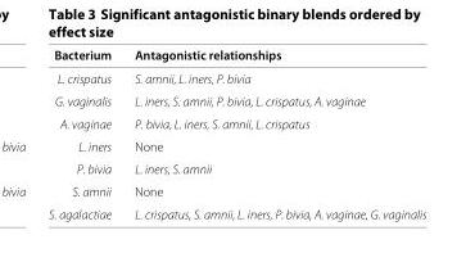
<table><thead><tr><td>Bacterium</td><td>Antagonistic relationships</td></tr></thead><tbody><tr><td>L. crispatus</td><td>S. amnii, L. iners, P. bivia</td></tr><tr><td>G. vaginalis</td><td>L. iners, S. amnii, P. bivia, L. crispatus, A. vaginae</td></tr><tr><td>A. vaginae</td><td>P. bivia, L. iners, S. amnii, L. crispatus</td></tr><tr><td>L. iners</td><td>None</td></tr><tr><td>P. bivia</td><td>L. iners, S. amnii</td></tr><tr><td>S. amnii</td><td>None</td></tr><tr><td>S. agalactiae</td><td>L. crispatus, S. amnii, L. iners, P. bivia, A. vaginae, G. vaginalis</td></tr></tbody></table>